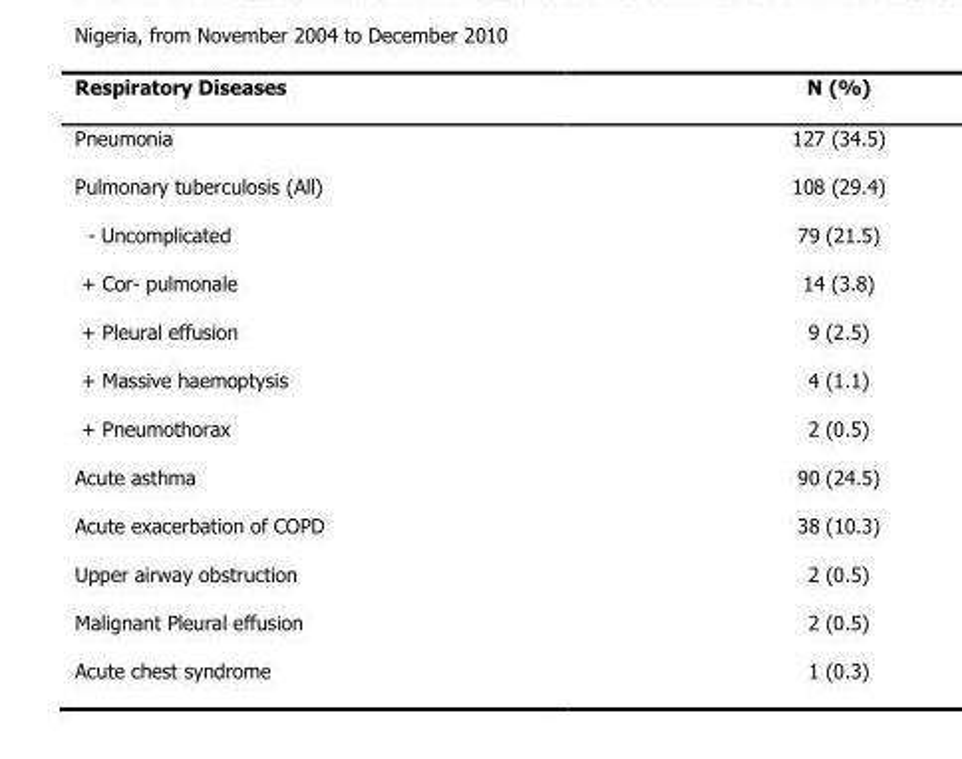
<table><thead><tr><td>Respiratory Diseases</td><td>N (%)</td></tr></thead><tbody><tr><td>Pneumonia</td><td>127 (34.5)</td></tr><tr><td>Pulmonary tuberculosis (All)</td><td>108 (29.4)</td></tr><tr><td>- Uncomplicated</td><td>79 (21.5)</td></tr><tr><td>+ Cor- pulmonale</td><td>14 (3.8)</td></tr><tr><td>+ Pleural effusion</td><td>9 (2.5)</td></tr><tr><td>+ Massive haemoptysis</td><td>4 (1.1)</td></tr><tr><td>+ Pneumothorax</td><td>2 (0.5)</td></tr><tr><td>Acute asthma</td><td>90 (24.5)</td></tr><tr><td>Acute exacerbation of COPD</td><td>38 (10.3)</td></tr><tr><td>Upper airway obstruction</td><td>2 (0.5)</td></tr><tr><td>Malignant Pleural effusion</td><td>2 (0.5)</td></tr><tr><td>Acute chest syndrome</td><td>1 (0.3)</td></tr></tbody></table>